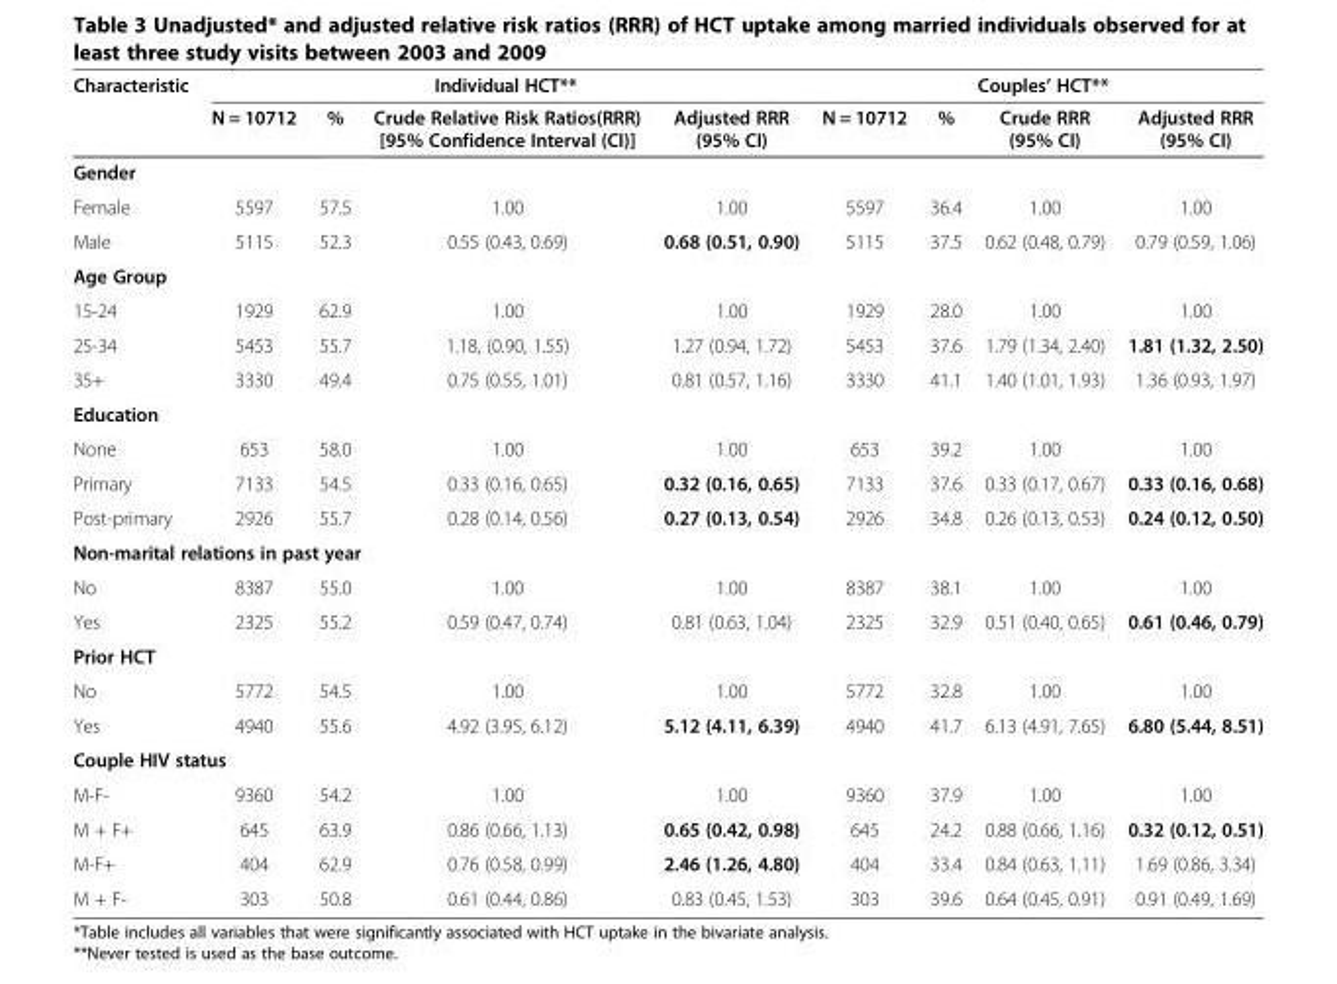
<table><thead><tr><td rowspan="2">Characteristic</td><td colspan="4">Individual HCT**</td><td colspan="4">Couples’ HCT**</td></tr><tr><td>N = 10712</td><td>%</td><td>Crude Relative Risk Ratios(RRR) [95% Confidence Interval (CI)]</td><td>Adjusted RRR (95% CI)</td><td>N = 10712</td><td>%</td><td>Crude RRR (95% CI)</td><td>Adjusted RRR (95% CI)</td></tr></thead><tbody><tr><td colspan="9">Gender</td></tr><tr><td>Female</td><td>5597</td><td>57.5</td><td>1.00</td><td>1.00</td><td>5597</td><td>36.4</td><td>1.00</td><td>1.00</td></tr><tr><td>Male</td><td>5115</td><td>52.3</td><td>0.55 (0.43, 0.69)</td><td>0.68 (0.51, 0.90)</td><td>5115</td><td>37.5</td><td>0.62 (0.48, 0.79)</td><td>0.79 (0.59, 1.06)</td></tr><tr><td colspan="9">Age Group</td></tr><tr><td>15-24</td><td>1929</td><td>62.9</td><td>1.00</td><td>1.00</td><td>1929</td><td>28.0</td><td>1.00</td><td>1.00</td></tr><tr><td>25-34</td><td>5453</td><td>55.7</td><td>1.18, (0.90, 1.55)</td><td>1.27 (0.94, 1.72)</td><td>5453</td><td>37.6</td><td>1.79 (1.34, 2.40)</td><td>1.81 (1.32, 2.50)</td></tr><tr><td>35+</td><td>3330</td><td>49.4</td><td>0.75 (0.55, 1.01)</td><td>0.81 (0.57, 1.16)</td><td>3330</td><td>41.1</td><td>1.40 (1.01, 1.93)</td><td>1.36 (0.93, 1.97)</td></tr><tr><td colspan="9">Education</td></tr><tr><td>None</td><td>653</td><td>58.0</td><td>1.00</td><td>1.00</td><td>653</td><td>39.2</td><td>1.00</td><td>1.00</td></tr><tr><td>Primary</td><td>7133</td><td>54.5</td><td>0.33 (0.16, 0.65)</td><td>0.32 (0.16, 0.65)</td><td>7133</td><td>37.6</td><td>0.33 (0.17, 0.67)</td><td>0.33 (0.16, 0.68)</td></tr><tr><td>Post-primary</td><td>2926</td><td>55.7</td><td>0.28 (0.14, 0.56)</td><td>0.27 (0.13, 0.54)</td><td>2926</td><td>34.8</td><td>0.26 (0.13, 0.53)</td><td>0.24 (0.12, 0.50)</td></tr><tr><td colspan="9">Non-marital relations in past year</td></tr><tr><td>No</td><td>8387</td><td>55.0</td><td>1.00</td><td>1.00</td><td>8387</td><td>38.1</td><td>1.00</td><td>1.00</td></tr><tr><td>Yes</td><td>2325</td><td>55.2</td><td>0.59 (0.47, 0.74)</td><td>0.81 (0.63, 1.04)</td><td>2325</td><td>32.9</td><td>0.51 (0.40, 0.65)</td><td>0.61 (0.46, 0.79)</td></tr><tr><td colspan="9">Prior HCT</td></tr><tr><td>No</td><td>5772</td><td>54.5</td><td>1.00</td><td>1.00</td><td>5772</td><td>32.8</td><td>1.00</td><td>1.00</td></tr><tr><td>Yes</td><td>4940</td><td>55.6</td><td>4.92 (3.95, 6.12)</td><td>5.12 (4.11, 6.39)</td><td>4940</td><td>41.7</td><td>6.13 (4.91, 7.65)</td><td>6.80 (5.44, 8.51)</td></tr><tr><td colspan="9">Couple HIV status</td></tr><tr><td>M-F-</td><td>9360</td><td>54.2</td><td>1.00</td><td>1.00</td><td>9360</td><td>37.9</td><td>1.00</td><td>1.00</td></tr><tr><td>M + F+</td><td>645</td><td>63.9</td><td>0.86 (0.66, 1.13)</td><td>0.65 (0.42, 0.98)</td><td>645</td><td>24.2</td><td>0.88 (0.66, 1.16)</td><td>0.32 (0.12, 0.51)</td></tr><tr><td>M-F+</td><td>404</td><td>62.9</td><td>0.76 (0.58, 0.99)</td><td>2.46 (1.26, 4.80)</td><td>404</td><td>33.4</td><td>0.84 (0.63, 1.11)</td><td>1.69 (0.86, 3.34)</td></tr><tr><td>M + F-</td><td>303</td><td>50.8</td><td>0.61 (0.44, 0.86)</td><td>0.83 (0.45, 1.53)</td><td>303</td><td>39.6</td><td>0.64 (0.45, 0.91)</td><td>0.91 (0.49, 1.69)</td></tr></tbody></table>